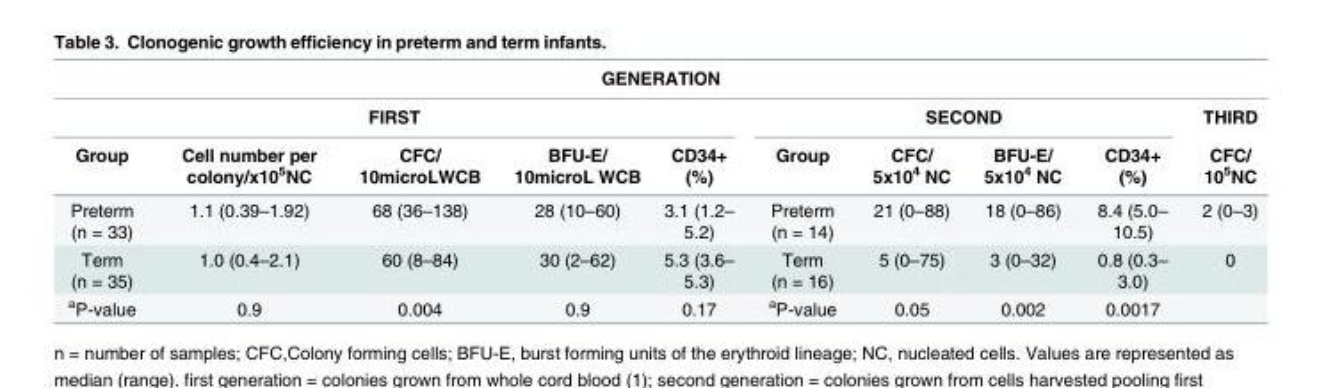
<table><thead><tr><td colspan="10">GENERATION</td></tr><tr><td colspan="5">FIRST</td><td colspan="4">SECOND</td><td rowspan="2">THIRD CFC/ 10<sup>5</sup>NC</td></tr><tr><td>Group</td><td>Cell number per colony/x10<sup>5</sup>NC</td><td>CFC/ 10microLWCB</td><td>BFU-E/ 10microL WCB</td><td>CD34+ (%)</td><td>Group</td><td>CFC/ 5x10<sup>4</sup> NC</td><td>BFU-E/ 5x10<sup>4</sup> NC</td><td>CD34+ (%)</td></tr></thead><tbody><tr><td>Preterm (n = 33)</td><td>1.1 (0.39–1.92)</td><td>68 (36–138)</td><td>28 (10–60)</td><td>3.1 (1.2– 5.2)</td><td>Preterm (n = 14)</td><td>21 (0–88)</td><td>18 (0–86)</td><td>8.4 (5.0– 10.5)</td><td>2 (0–3)</td></tr><tr><td>Term (n = 35)</td><td>1.0 (0.4–2.1)</td><td>60 (8–84)</td><td>30 (2–62)</td><td>5.3 (3.6– 5.3)</td><td>Term (n = 16)</td><td>5 (0–75)</td><td>3 (0–32)</td><td>0.8 (0.3– 3.0)</td><td>0</td></tr><tr><td><sup>a</sup>P-value</td><td>0.9</td><td>0.004</td><td>0.9</td><td>0.17</td><td><sup>a</sup>P-value</td><td>0.05</td><td>0.002</td><td>0.0017</td><td></td></tr></tbody></table>